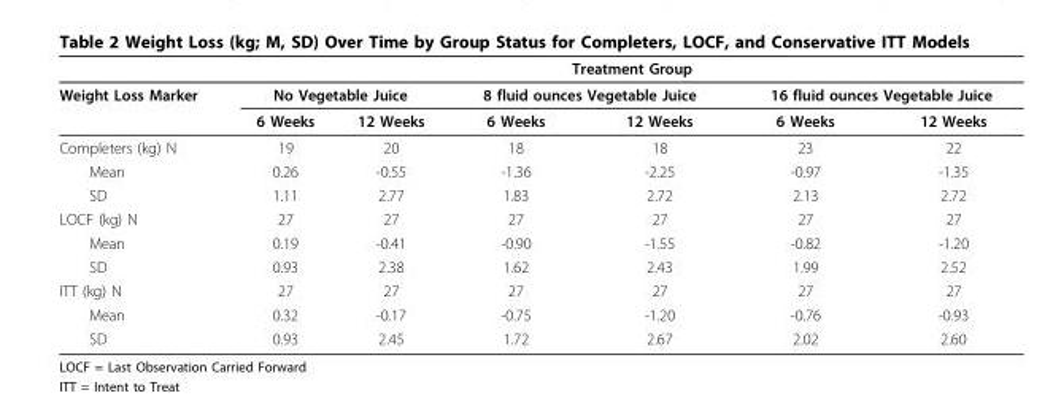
<table><thead><tr><td rowspan="3">Weight Loss Marker</td><td colspan="6">Treatment Group</td></tr><tr><td colspan="2">No Vegetable Juice</td><td colspan="2">8 fluid ounces Vegetable Juice</td><td colspan="2">16 fluid ounces Vegetable Juice</td></tr><tr><td>6 Weeks</td><td>12 Weeks</td><td>6 Weeks</td><td>12 Weeks</td><td>6 Weeks</td><td>12 Weeks</td></tr></thead><tbody><tr><td>Completers (kg) N</td><td>19</td><td>20</td><td>18</td><td>18</td><td>23</td><td>22</td></tr><tr><td>Mean</td><td>0.26</td><td>-0.55</td><td>-1.36</td><td>-2.25</td><td>-0.97</td><td>-1.35</td></tr><tr><td>SD</td><td>1.11</td><td>2.77</td><td>1.83</td><td>2.72</td><td>2.13</td><td>2.72</td></tr><tr><td>LOCF (kg) N</td><td>27</td><td>27</td><td>27</td><td>27</td><td>27</td><td>27</td></tr><tr><td>Mean</td><td>0.19</td><td>-0.41</td><td>-0.90</td><td>-1.55</td><td>-0.82</td><td>-1.20</td></tr><tr><td>SD</td><td>0.93</td><td>2.38</td><td>1.62</td><td>2.43</td><td>1.99</td><td>2.52</td></tr><tr><td>ITT (kg) N</td><td>27</td><td>27</td><td>27</td><td>27</td><td>27</td><td>27</td></tr><tr><td>Mean</td><td>0.32</td><td>-0.17</td><td>-0.75</td><td>-1.20</td><td>-0.76</td><td>-0.93</td></tr><tr><td>SD</td><td>0.93</td><td>2.45</td><td>1.72</td><td>2.67</td><td>2.02</td><td>2.60</td></tr></tbody></table>